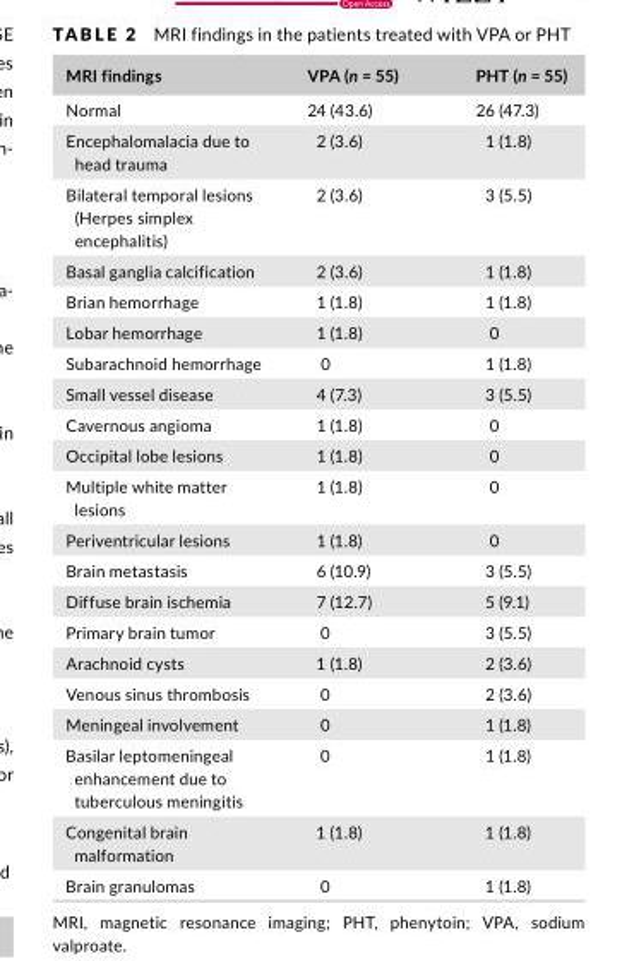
<table><thead><tr><td>MRI findings</td><td>VPA (n = 55)</td><td>PHT (n = 55)</td></tr></thead><tbody><tr><td>Normal</td><td>24 (43.6)</td><td>26 (47.3)</td></tr><tr><td>Encephalomalacia due to head trauma</td><td>2 (3.6)</td><td>1 (1.8)</td></tr><tr><td>Bilateral temporal lesions (Herpes simplex encephalitis)</td><td>2 (3.6)</td><td>3 (5.5)</td></tr><tr><td>Basal ganglia calcification</td><td>2 (3.6)</td><td>1 (1.8)</td></tr><tr><td>Brian hemorrhage</td><td>1 (1.8)</td><td>1 (1.8)</td></tr><tr><td>Lobar hemorrhage</td><td>1 (1.8)</td><td>0</td></tr><tr><td>Subarachnoid hemorrhage</td><td>0</td><td>1 (1.8)</td></tr><tr><td>Small vessel disease</td><td>4 (7.3)</td><td>3 (5.5)</td></tr><tr><td>Cavernous angioma</td><td>1 (1.8)</td><td>0</td></tr><tr><td>Occipital lobe lesions</td><td>1 (1.8)</td><td>0</td></tr><tr><td>Multiple white matter lesions</td><td>1 (1.8)</td><td>0</td></tr><tr><td>Periventricular lesions</td><td>1 (1.8)</td><td>0</td></tr><tr><td>Brain metastasis</td><td>6 (10.9)</td><td>3 (5.5)</td></tr><tr><td>Diffuse brain ischemia</td><td>7 (12.7)</td><td>5 (9.1)</td></tr><tr><td>Primary brain tumor</td><td>0</td><td>3 (5.5)</td></tr><tr><td>Arachnoid cysts</td><td>1 (1.8)</td><td>2 (3.6)</td></tr><tr><td>Venous sinus thrombosis</td><td>0</td><td>2 (3.6)</td></tr><tr><td>Meningeal involvement</td><td>0</td><td>1 (1.8)</td></tr><tr><td>Basilar leptomeningeal enhancement due to tuberculous meningitis</td><td>0</td><td>1 (1.8)</td></tr><tr><td>Congenital brain malformation</td><td>1 (1.8)</td><td>1 (1.8)</td></tr><tr><td>Brain granulomas</td><td>0</td><td>1 (1.8)</td></tr></tbody></table>